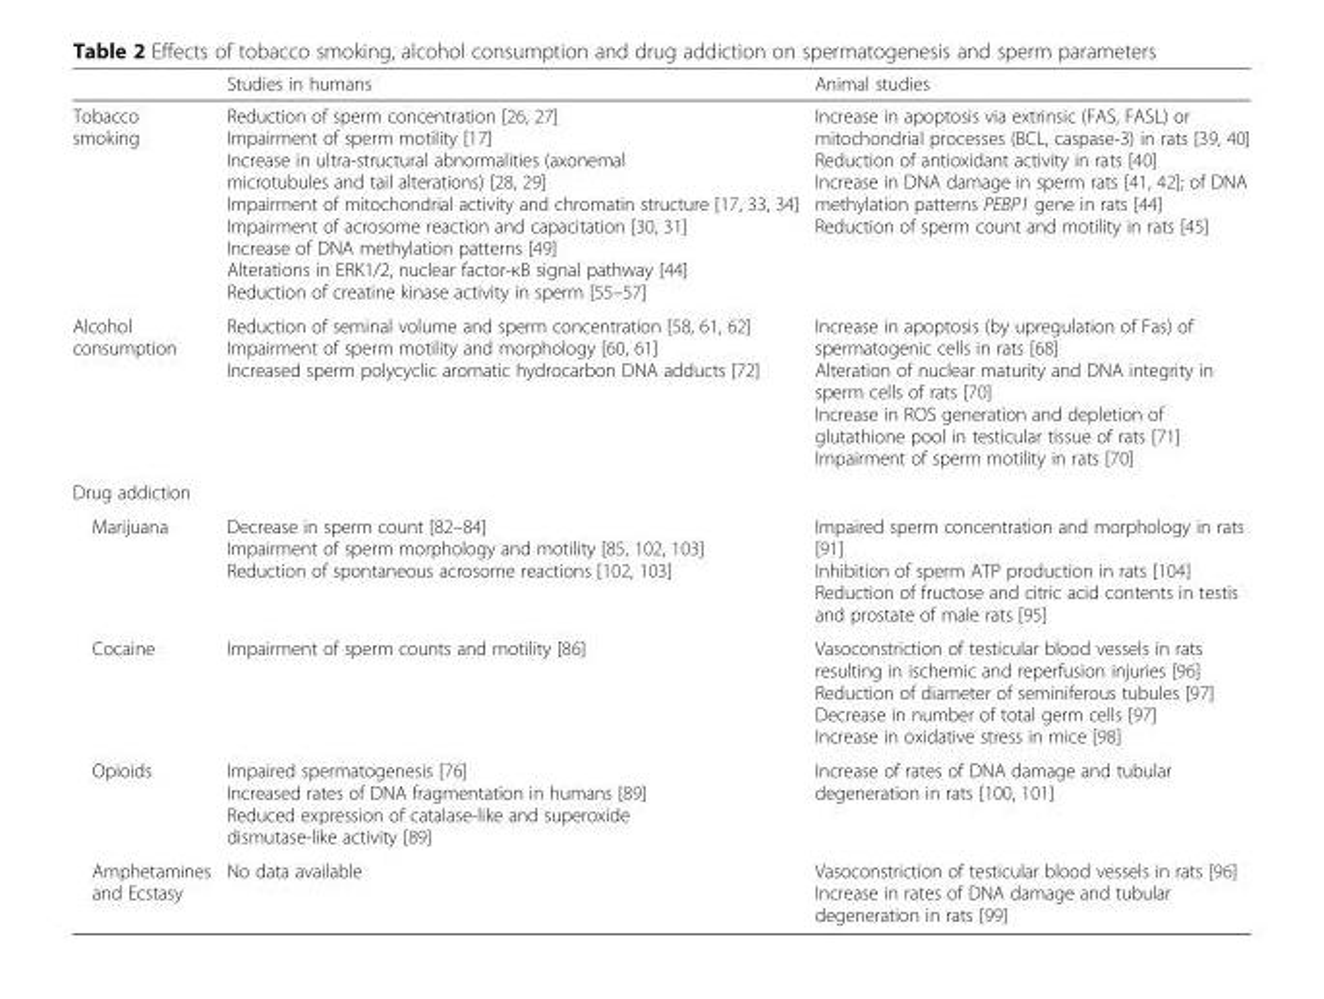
<table><thead><tr><td></td><td>Studies in humans</td><td>Animal studies</td></tr></thead><tbody><tr><td>Tobacco smoking</td><td>Reduction of sperm concentration [26, 27] Impairment of sperm motility [17] Increase in ultra-structural abnormalities (axonemal microtubules and tail alterations) [28, 29] Impairment of mitochondrial activity and chromatin structure [17, 33, 34] Impairment of acrosome reaction and capacitation [30, 31] Increase of DNA methylation patterns [49] Alterations in ERK1/2, nuclear factor-κB signal pathway [44] Reduction of creatine kinase activity in sperm [55–57]</td><td>Increase in apoptosis via extrinsic (FAS, FASL) or mitochondrial processes (BCL, caspase-3) in rats [39, 40] Reduction of antioxidant activity in rats [40] Increase in DNA damage in sperm rats [41, 42]; of DNA methylation patterns PEBP1 gene in rats [44] Reduction of sperm count and motility in rats [45]</td></tr><tr><td>Alcohol consumption</td><td>Reduction of seminal volume and sperm concentration [58, 61, 62] Impairment of sperm motility and morphology [60, 61] Increased sperm polycyclic aromatic hydrocarbon DNA adducts [72]</td><td>Increase in apoptosis (by upregulation of Fas) of spermatogenic cells in rats [68] Alteration of nuclear maturity and DNA integrity in sperm cells of rats [70] Increase in ROS generation and depletion of glutathione pool in testicular tissue of rats [71] Impairment of sperm motility in rats [70]</td></tr><tr><td colspan="3">Drug addiction</td></tr><tr><td>Marijuana</td><td>Decrease in sperm count [82–84] Impairment of sperm morphology and motility [85, 102, 103] Reduction of spontaneous acrosome reactions [102, 103]</td><td>Impaired sperm concentration and morphology in rats [91] Inhibition of sperm ATP production in rats [104] Reduction of fructose and citric acid contents in testis and prostate of male rats [95]</td></tr><tr><td>Cocaine</td><td>Impairment of sperm counts and motility [86]</td><td>Vasoconstriction of testicular blood vessels in rats resulting in ischemic and reperfusion injuries [96] Reduction of diameter of seminiferous tubules [97] Decrease in number of total germ cells [97] Increase in oxidative stress in mice [98]</td></tr><tr><td>Opioids</td><td>Impaired spermatogenesis [76] Increased rates of DNA fragmentation in humans [89] Reduced expression of catalase-like and superoxide dismutase-like activity [89]</td><td>Increase of rates of DNA damage and tubular degeneration in rats [100, 101]</td></tr><tr><td>Amphetamines and Ecstasy</td><td>No data available</td><td>Vasoconstriction of testicular blood vessels in rats [96] Increase in rates of DNA damage and tubular degeneration in rats [99]</td></tr></tbody></table>